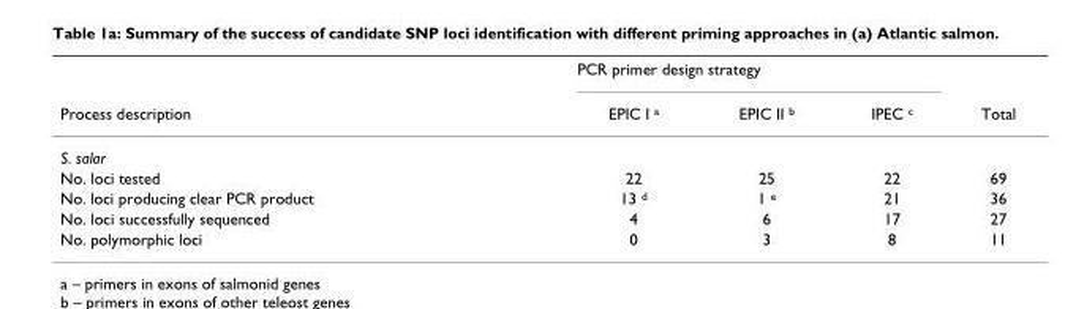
<table><thead><tr><td rowspan="2">Process description</td><td colspan="3">PCR primer design strategy</td><td rowspan="2">Total</td></tr><tr><td>EPIC I a</td><td>EPIC II b</td><td>IPEC c</td></tr></thead><tbody><tr><td colspan="5">S. salar</td></tr><tr><td>No. loci tested</td><td>22</td><td>25</td><td>22</td><td>69</td></tr><tr><td>No. loci producing clear PCR product</td><td>13 d</td><td>1 e</td><td>21</td><td>36</td></tr><tr><td>No. loci successfully sequenced</td><td>4</td><td>6</td><td>17</td><td>27</td></tr><tr><td>No. polymorphic loci</td><td>0</td><td>3</td><td>8</td><td>11</td></tr></tbody></table>